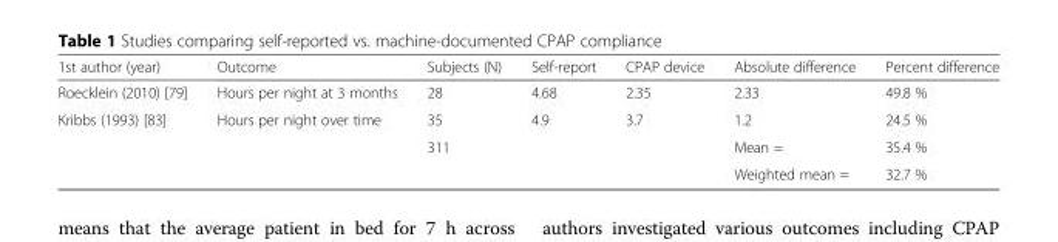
<table><thead><tr><td>1st author (year)</td><td>Outcome</td><td>Subjects (N)</td><td>Self-report</td><td>CPAP device</td><td>Absolute difference</td><td>Percent difference</td></tr></thead><tbody><tr><td>Roecklein (2010) [79]</td><td>Hours per night at 3 months</td><td>28</td><td>4.68</td><td>2.35</td><td>2.33</td><td>49.8 %</td></tr><tr><td rowspan="3">Kribbs (1993) [83]</td><td>Hours per night over time</td><td>35</td><td>4.9</td><td>3.7</td><td>1.2</td><td>24.5 %</td></tr><tr><td></td><td>311</td><td></td><td></td><td>Mean =</td><td>35.4 %</td></tr><tr><td></td><td></td><td></td><td></td><td>Weighted mean =</td><td>32.7 %</td></tr></tbody></table>